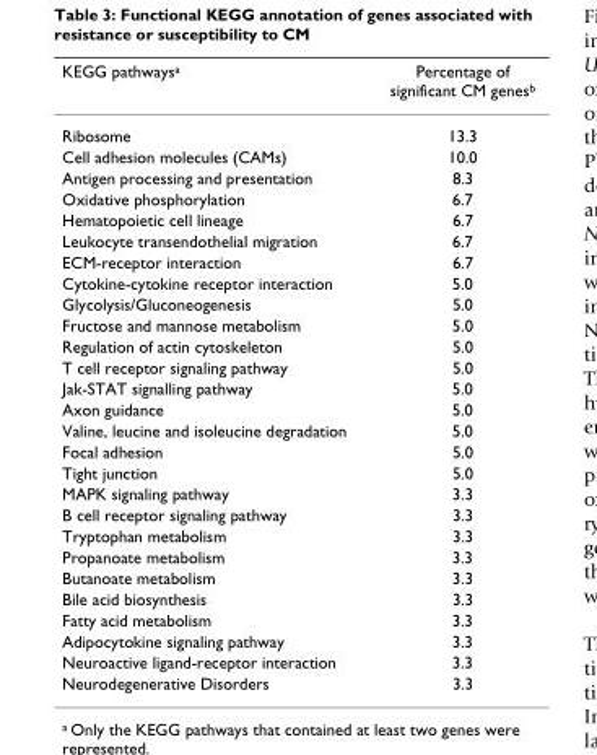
<table><thead><tr><td>KEGG pathways<sup>a</sup></td><td>Percentage of significant CM genes<sup>b</sup></td></tr></thead><tbody><tr><td>Ribosome</td><td>13.3</td></tr><tr><td>Cell adhesion molecules (CAMs)</td><td>10.0</td></tr><tr><td>Antigen processing and presentation</td><td>8.3</td></tr><tr><td>Oxidative phosphorylation</td><td>6.7</td></tr><tr><td>Hematopoietic cell lineage</td><td>6.7</td></tr><tr><td>Leukocyte transendothelial migration</td><td>6.7</td></tr><tr><td>ECM-receptor interaction</td><td>6.7</td></tr><tr><td>Cytokine-cytokine receptor interaction</td><td>5.0</td></tr><tr><td>Glycolysis/Gluconeogenesis</td><td>5.0</td></tr><tr><td>Fructose and mannose metabolism</td><td>5.0</td></tr><tr><td>Regulation of actin cytoskeleton</td><td>5.0</td></tr><tr><td>T cell receptor signaling pathway</td><td>5.0</td></tr><tr><td>Jak-STAT signalling pathway</td><td>5.0</td></tr><tr><td>Axon guidance</td><td>5.0</td></tr><tr><td>Valine, leucine and isoleucine degradation</td><td>5.0</td></tr><tr><td>Focal adhesion</td><td>5.0</td></tr><tr><td>Tight junction</td><td>5.0</td></tr><tr><td>MAPK signaling pathway</td><td>3.3</td></tr><tr><td>B cell receptor signaling pathway</td><td>3.3</td></tr><tr><td>Tryptophan metabolism</td><td>3.3</td></tr><tr><td>Propanoate metabolism</td><td>3.3</td></tr><tr><td>Butanoate metabolism</td><td>3.3</td></tr><tr><td>Bile acid biosynthesis</td><td>3.3</td></tr><tr><td>Fatty acid metabolism</td><td>3.3</td></tr><tr><td>Adipocytokine signaling pathway</td><td>3.3</td></tr><tr><td>Neuroactive ligand-receptor interaction</td><td>3.3</td></tr><tr><td>Neurodegenerative Disorders</td><td>3.3</td></tr></tbody></table>